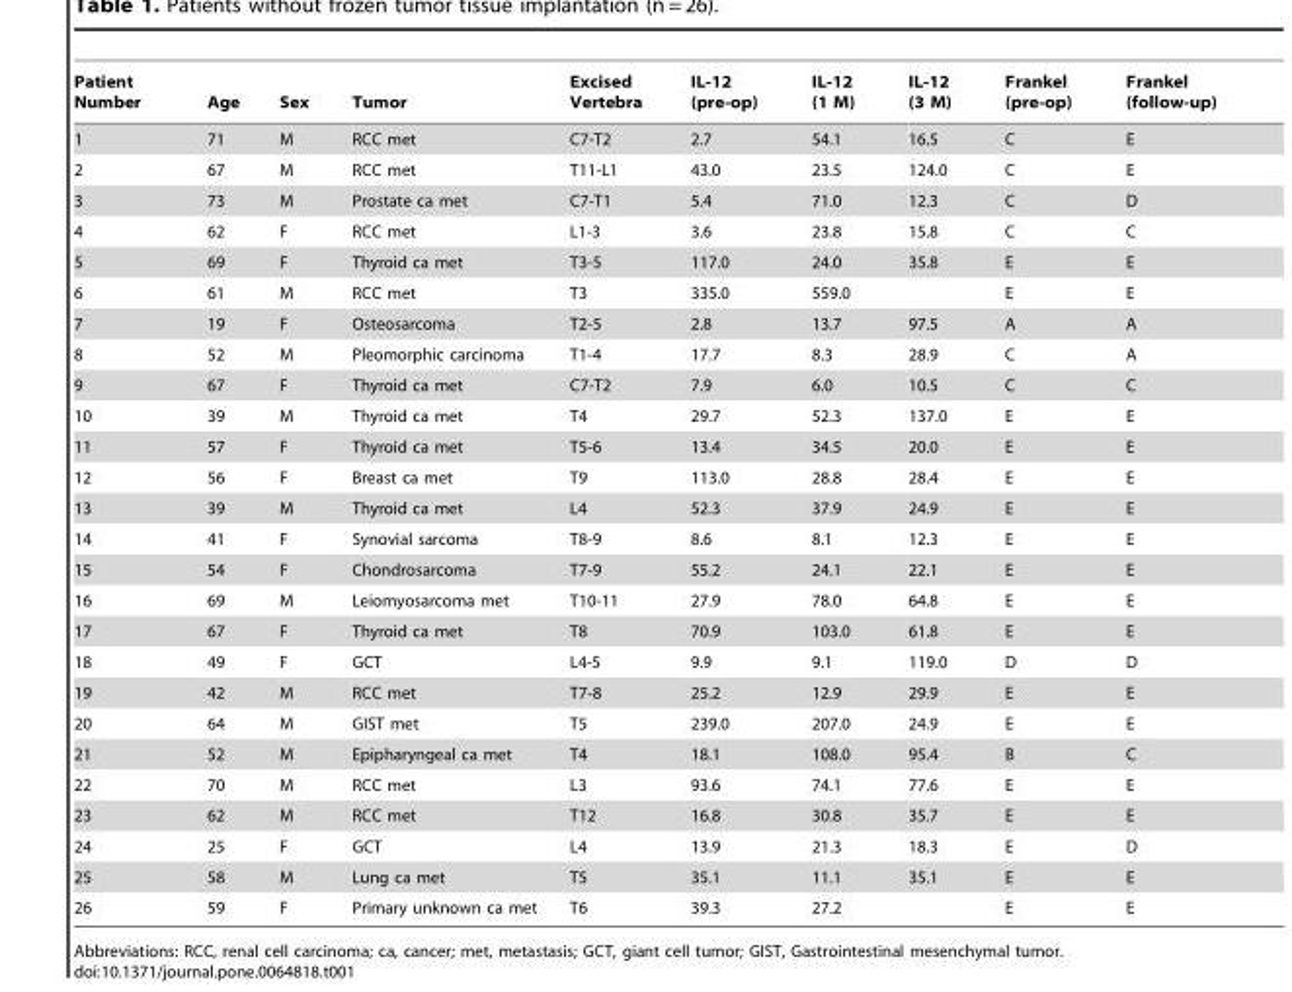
<table><thead><tr><td>Patient Number</td><td>Age</td><td>Sex</td><td>Tumor</td><td>Excised Vertebra</td><td>IL-12 (pre-op)</td><td>IL-12 (1 M)</td><td>IL-12 (3 M)</td><td>Frankel (pre-op)</td><td>Frankel (follow-up)</td></tr></thead><tbody><tr><td>1</td><td>71</td><td>M</td><td>RCC met</td><td>C7-T2</td><td>2.7</td><td>54.1</td><td>16.5</td><td>C</td><td>E</td></tr><tr><td>2</td><td>67</td><td>M</td><td>RCC met</td><td>T11-L1</td><td>43.0</td><td>23.5</td><td>124.0</td><td>C</td><td>E</td></tr><tr><td>3</td><td>73</td><td>M</td><td>Prostate ca met</td><td>C7-T1</td><td>5.4</td><td>71.0</td><td>12.3</td><td>C</td><td>D</td></tr><tr><td>4</td><td>62</td><td>F</td><td>RCC met</td><td>L1-3</td><td>3.6</td><td>23.8</td><td>15.8</td><td>C</td><td>C</td></tr><tr><td>5</td><td>69</td><td>F</td><td>Thyroid ca met</td><td>T3-5</td><td>117.0</td><td>24.0</td><td>35.8</td><td>E</td><td>E</td></tr><tr><td>6</td><td>61</td><td>M</td><td>RCC met</td><td>T3</td><td>335.0</td><td>559.0</td><td></td><td>E</td><td>E</td></tr><tr><td>7</td><td>19</td><td>F</td><td>Osteosarcoma</td><td>T2-5</td><td>2.8</td><td>13.7</td><td>97.5</td><td>A</td><td>A</td></tr><tr><td>8</td><td>52</td><td>M</td><td>Pleomorphic carcinoma</td><td>T1-4</td><td>17.7</td><td>8.3</td><td>28.9</td><td>C</td><td>A</td></tr><tr><td>9</td><td>67</td><td>F</td><td>Thyroid ca met</td><td>C7-T2</td><td>7.9</td><td>6.0</td><td>10.5</td><td>C</td><td>C</td></tr><tr><td>10</td><td>39</td><td>M</td><td>Thyroid ca met</td><td>T4</td><td>29.7</td><td>52.3</td><td>137.0</td><td>E</td><td>E</td></tr><tr><td>11</td><td>57</td><td>F</td><td>Thyroid ca met</td><td>T5-6</td><td>13.4</td><td>34.5</td><td>20.0</td><td>E</td><td>E</td></tr><tr><td>12</td><td>56</td><td>F</td><td>Breast ca met</td><td>T9</td><td>113.0</td><td>28.8</td><td>28.4</td><td>E</td><td>E</td></tr><tr><td>13</td><td>39</td><td>M</td><td>Thyroid ca met</td><td>L4</td><td>52.3</td><td>37.9</td><td>24.9</td><td>E</td><td>E</td></tr><tr><td>14</td><td>41</td><td>F</td><td>Synovial sarcoma</td><td>T8-9</td><td>8.6</td><td>8.1</td><td>12.3</td><td>E</td><td>E</td></tr><tr><td>15</td><td>54</td><td>F</td><td>Chondrosarcoma</td><td>T7-9</td><td>55.2</td><td>24.1</td><td>22.1</td><td>E</td><td>E</td></tr><tr><td>16</td><td>69</td><td>M</td><td>Leiomyosarcoma met</td><td>T10-11</td><td>27.9</td><td>78.0</td><td>64.8</td><td>E</td><td>E</td></tr><tr><td>17</td><td>67</td><td>F</td><td>Thyroid ca met</td><td>T8</td><td>70.9</td><td>103.0</td><td>61.8</td><td>E</td><td>E</td></tr><tr><td>18</td><td>49</td><td>F</td><td>GCT</td><td>L4-5</td><td>9.9</td><td>9.1</td><td>119.0</td><td>D</td><td>D</td></tr><tr><td>19</td><td>42</td><td>M</td><td>RCC met</td><td>T7-8</td><td>25.2</td><td>12.9</td><td>29.9</td><td>E</td><td>E</td></tr><tr><td>20</td><td>64</td><td>M</td><td>GIST met</td><td>T5</td><td>239.0</td><td>207.0</td><td>24.9</td><td>E</td><td>E</td></tr><tr><td>21</td><td>52</td><td>M</td><td>Epipharyngeal ca met</td><td>T4</td><td>18.1</td><td>108.0</td><td>95.4</td><td>B</td><td>C</td></tr><tr><td>22</td><td>70</td><td>M</td><td>RCC met</td><td>L3</td><td>93.6</td><td>74.1</td><td>77.6</td><td>E</td><td>E</td></tr><tr><td>23</td><td>62</td><td>M</td><td>RCC met</td><td>T12</td><td>16.8</td><td>30.8</td><td>35.7</td><td>E</td><td>E</td></tr><tr><td>24</td><td>25</td><td>F</td><td>GCT</td><td>L4</td><td>13.9</td><td>21.3</td><td>18.3</td><td>E</td><td>D</td></tr><tr><td>25</td><td>58</td><td>M</td><td>Lung ca met</td><td>T5</td><td>35.1</td><td>11.1</td><td>35.1</td><td>E</td><td>E</td></tr><tr><td>26</td><td>59</td><td>F</td><td>Primary unknown ca met</td><td>T6</td><td>39.3</td><td>27.2</td><td></td><td>E</td><td>E</td></tr></tbody></table>